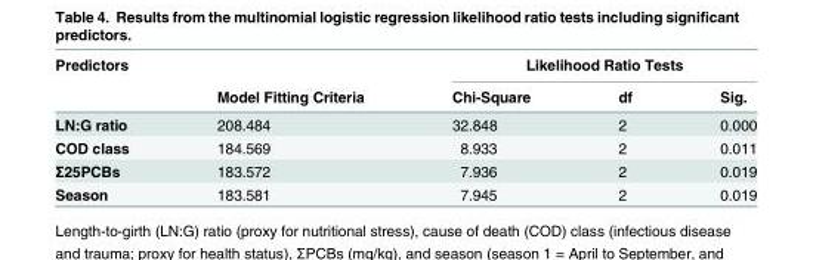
<table><thead><tr><td rowspan="2">Predictors</td><td rowspan="2">Model Fitting Criteria</td><td colspan="3">Likelihood Ratio Tests</td></tr><tr><td>Chi-Square</td><td>df</td><td>Sig.</td></tr></thead><tbody><tr><td>LN:G ratio</td><td>208.484</td><td>32.848</td><td>2</td><td>0.000</td></tr><tr><td>COD class</td><td>184.569</td><td>8.933</td><td>2</td><td>0.011</td></tr><tr><td>Σ25PCBs</td><td>183.572</td><td>7.936</td><td>2</td><td>0.019</td></tr><tr><td>Season</td><td>183.581</td><td>7.945</td><td>2</td><td>0.019</td></tr></tbody></table>